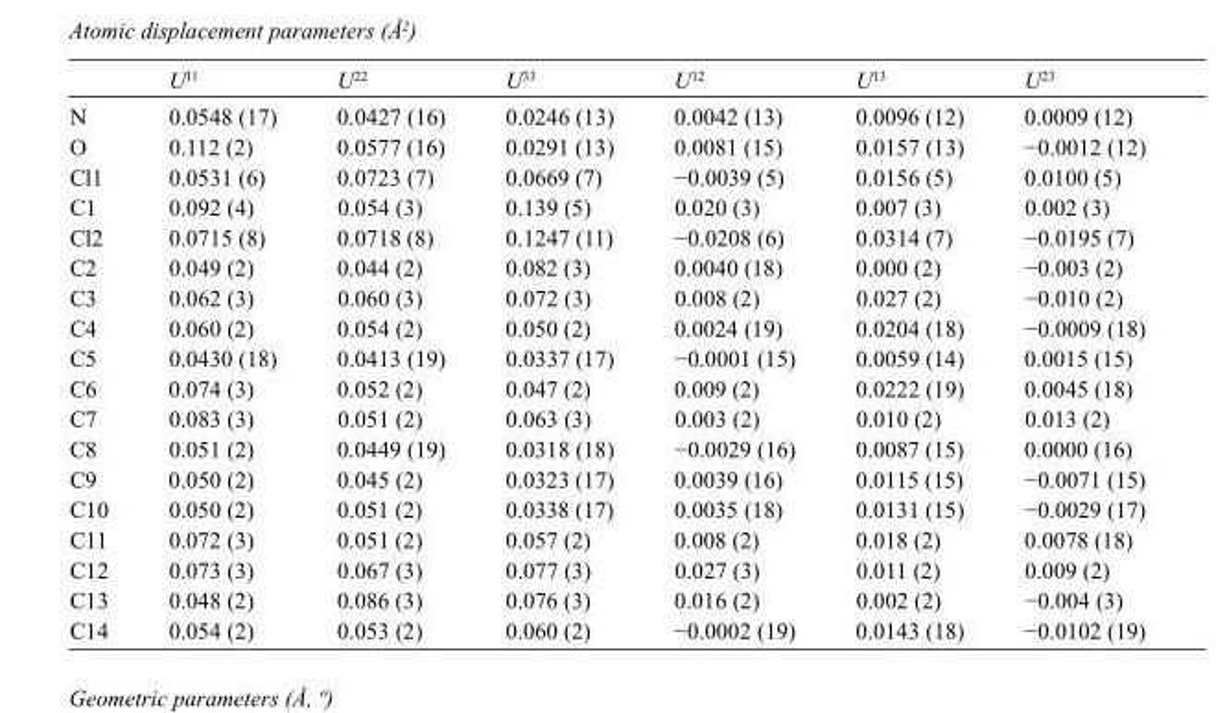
<table><thead><tr><td></td><td>U<sup>11</sup></td><td>U<sup>22</sup></td><td>U<sup>33</sup></td><td>U<sup>12</sup></td><td>U<sup>13</sup></td><td>U<sup>23</sup></td></tr></thead><tbody><tr><td>N</td><td>0.0548 (17)</td><td>0.0427 (16)</td><td>0.0246 (13)</td><td>0.0042 (13)</td><td>0.0096 (12)</td><td>0.0009 (12)</td></tr><tr><td>O</td><td>0.112 (2)</td><td>0.0577 (16)</td><td>0.0291 (13)</td><td>0.0081 (15)</td><td>0.0157 (13)</td><td>−0.0012 (12)</td></tr><tr><td>Cl1</td><td>0.0531 (6)</td><td>0.0723 (7)</td><td>0.0669 (7)</td><td>−0.0039 (5)</td><td>0.0156 (5)</td><td>0.0100 (5)</td></tr><tr><td>C1</td><td>0.092 (4)</td><td>0.054 (3)</td><td>0.139 (5)</td><td>0.020 (3)</td><td>0.007 (3)</td><td>0.002 (3)</td></tr><tr><td>Cl2</td><td>0.0715 (8)</td><td>0.0718 (8)</td><td>0.1247 (11)</td><td>−0.0208 (6)</td><td>0.0314 (7)</td><td>−0.0195 (7)</td></tr><tr><td>C2</td><td>0.049 (2)</td><td>0.044 (2)</td><td>0.082 (3)</td><td>0.0040 (18)</td><td>0.000 (2)</td><td>−0.003 (2)</td></tr><tr><td>C3</td><td>0.062 (3)</td><td>0.060 (3)</td><td>0.072 (3)</td><td>0.008 (2)</td><td>0.027 (2)</td><td>−0.010 (2)</td></tr><tr><td>C4</td><td>0.060 (2)</td><td>0.054 (2)</td><td>0.050 (2)</td><td>0.0024 (19)</td><td>0.0204 (18)</td><td>−0.0009 (18)</td></tr><tr><td>C5</td><td>0.0430 (18)</td><td>0.0413 (19)</td><td>0.0337 (17)</td><td>−0.0001 (15)</td><td>0.0059 (14)</td><td>0.0015 (15)</td></tr><tr><td>C6</td><td>0.074 (3)</td><td>0.052 (2)</td><td>0.047 (2)</td><td>0.009 (2)</td><td>0.0222 (19)</td><td>0.0045 (18)</td></tr><tr><td>C7</td><td>0.083 (3)</td><td>0.051 (2)</td><td>0.063 (3)</td><td>0.003 (2)</td><td>0.010 (2)</td><td>0.013 (2)</td></tr><tr><td>C8</td><td>0.051 (2)</td><td>0.0449 (19)</td><td>0.0318 (18)</td><td>−0.0029 (16)</td><td>0.0087 (15)</td><td>0.0000 (16)</td></tr><tr><td>C9</td><td>0.050 (2)</td><td>0.045 (2)</td><td>0.0323 (17)</td><td>0.0039 (16)</td><td>0.0115 (15)</td><td>−0.0071 (15)</td></tr><tr><td>C10</td><td>0.050 (2)</td><td>0.051 (2)</td><td>0.0338 (17)</td><td>0.0035 (18)</td><td>0.0131 (15)</td><td>−0.0029 (17)</td></tr><tr><td>C11</td><td>0.072 (3)</td><td>0.051 (2)</td><td>0.057 (2)</td><td>0.008 (2)</td><td>0.018 (2)</td><td>0.0078 (18)</td></tr><tr><td>C12</td><td>0.073 (3)</td><td>0.067 (3)</td><td>0.077 (3)</td><td>0.027 (3)</td><td>0.011 (2)</td><td>0.009 (2)</td></tr><tr><td>C13</td><td>0.048 (2)</td><td>0.086 (3)</td><td>0.076 (3)</td><td>0.016 (2)</td><td>0.002 (2)</td><td>−0.004 (3)</td></tr><tr><td>C14</td><td>0.054 (2)</td><td>0.053 (2)</td><td>0.060 (2)</td><td>−0.0002 (19)</td><td>0.0143 (18)</td><td>−0.0102 (19)</td></tr></tbody></table>